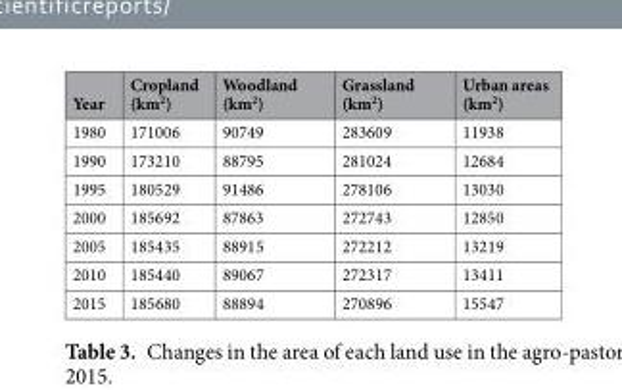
<table><thead><tr><td>Year</td><td>Cropland (km<sup>2</sup>)</td><td>Woodland (km<sup>2</sup>)</td><td>Grassland (km<sup>2</sup>)</td><td>Urban areas (km<sup>2</sup>)</td></tr></thead><tbody><tr><td>1980</td><td>171006</td><td>90749</td><td>283609</td><td>11938</td></tr><tr><td>1990</td><td>173210</td><td>88795</td><td>281024</td><td>12684</td></tr><tr><td>1995</td><td>180529</td><td>91486</td><td>278106</td><td>13030</td></tr><tr><td>2000</td><td>185692</td><td>87863</td><td>272743</td><td>12850</td></tr><tr><td>2005</td><td>185435</td><td>88915</td><td>272212</td><td>13219</td></tr><tr><td>2010</td><td>185440</td><td>89067</td><td>272317</td><td>13411</td></tr><tr><td>2015</td><td>185680</td><td>88894</td><td>270896</td><td>15547</td></tr></tbody></table>